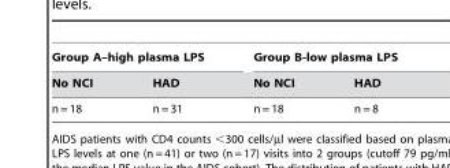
<table><thead><tr><td colspan="2">Group A–high plasma LPS</td><td colspan="2">Group B-low plasma LPS</td></tr><tr><td>No NCI</td><td>HAD</td><td>No NCI</td><td>HAD</td></tr></thead><tbody><tr><td>n = 18</td><td>n = 31</td><td>n = 18</td><td>n = 8</td></tr></tbody></table>